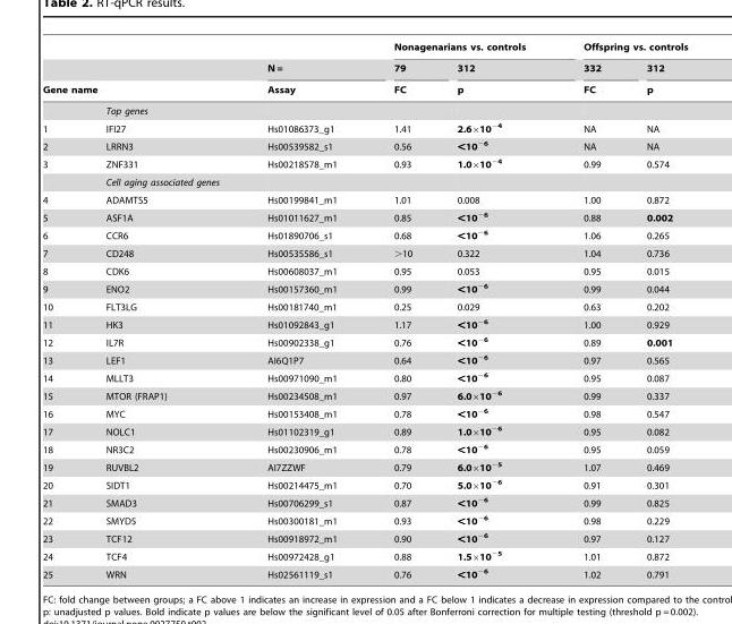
<table><thead><tr><td rowspan="2"></td><td rowspan="2"></td><td rowspan="3">N = Assay</td><td colspan="2">Nonagenarians vs. controls</td><td colspan="2">Offspring vs. controls</td></tr><tr><td rowspan="2">79 FC</td><td rowspan="2">312 p</td><td rowspan="2">332 FC</td><td rowspan="2">312 p</td></tr><tr><td colspan="2">Gene name</td></tr></thead><tbody><tr><td></td><td>Top genes</td><td></td><td></td><td></td><td></td><td></td></tr><tr><td>1</td><td>IFI27</td><td>Hs01086373_g1</td><td>1.41</td><td>2.6×10<sup>−4</sup></td><td>NA</td><td>NA</td></tr><tr><td>2</td><td>LRRN3</td><td>Hs00539582_s1</td><td>0.56</td><td>&lt;10<sup>−6</sup></td><td>NA</td><td>NA</td></tr><tr><td rowspan="2">3</td><td>ZNF331</td><td>Hs00218578_m1</td><td>0.93</td><td>1.0×10<sup>−4</sup></td><td>0.99</td><td>0.574</td></tr><tr><td>Cell aging associated genes</td><td></td><td></td><td></td><td></td><td></td></tr><tr><td>4</td><td>ADAMTS5</td><td>Hs00199841_m1</td><td>1.01</td><td>0.008</td><td>1.00</td><td>0.872</td></tr><tr><td>5</td><td>ASF1A</td><td>Hs01011627_m1</td><td>0.85</td><td>&lt;10<sup>−6</sup></td><td>0.88</td><td>0.002</td></tr><tr><td>6</td><td>CCR6</td><td>Hs01890706_s1</td><td>0.68</td><td>&lt;10<sup>−6</sup></td><td>1.06</td><td>0.265</td></tr><tr><td>7</td><td>CD248</td><td>Hs00535586_s1</td><td>&gt;10</td><td>0.322</td><td>1.04</td><td>0.736</td></tr><tr><td>8</td><td>CDK6</td><td>Hs00608037_m1</td><td>0.95</td><td>0.053</td><td>0.95</td><td>0.015</td></tr><tr><td>9</td><td>ENO2</td><td>Hs00157360_m1</td><td>0.99</td><td>&lt;10<sup>−6</sup></td><td>0.99</td><td>0.044</td></tr><tr><td>10</td><td>FLT3LG</td><td>Hs00181740_m1</td><td>0.25</td><td>0.029</td><td>0.63</td><td>0.202</td></tr><tr><td>11</td><td>HK3</td><td>Hs01092843_g1</td><td>1.17</td><td>&lt;10<sup>−6</sup></td><td>1.00</td><td>0.929</td></tr><tr><td>12</td><td>IL7R</td><td>Hs00902338_g1</td><td>0.76</td><td>&lt;10<sup>−6</sup></td><td>0.89</td><td>0.001</td></tr><tr><td>13</td><td>LEF1</td><td>AI6Q1P7</td><td>0.64</td><td>&lt;10<sup>−6</sup></td><td>0.97</td><td>0.565</td></tr><tr><td>14</td><td>MLLT3</td><td>Hs00971090_m1</td><td>0.80</td><td>&lt;10<sup>−6</sup></td><td>0.95</td><td>0.087</td></tr><tr><td>15</td><td>MTOR (FRAP1)</td><td>Hs00234508_m1</td><td>0.97</td><td>6.0×10<sup>−6</sup></td><td>0.99</td><td>0.337</td></tr><tr><td>16</td><td>MYC</td><td>Hs00153408_m1</td><td>0.78</td><td>&lt;10<sup>−6</sup></td><td>0.98</td><td>0.547</td></tr><tr><td>17</td><td>NOLC1</td><td>Hs01102319_g1</td><td>0.89</td><td>1.0×10<sup>−6</sup></td><td>0.95</td><td>0.082</td></tr><tr><td>18</td><td>NR3C2</td><td>Hs00230906_m1</td><td>0.78</td><td>&lt;10<sup>−6</sup></td><td>0.95</td><td>0.059</td></tr><tr><td>19</td><td>RUVBL2</td><td>AI7ZZWF</td><td>0.79</td><td>6.0×10<sup>−5</sup></td><td>1.07</td><td>0.469</td></tr><tr><td>20</td><td>SIDT1</td><td>Hs00214475_m1</td><td>0.70</td><td>5.0×10<sup>−6</sup></td><td>0.91</td><td>0.301</td></tr><tr><td>21</td><td>SMAD3</td><td>Hs00706299_s1</td><td>0.87</td><td>&lt;10<sup>−6</sup></td><td>0.99</td><td>0.825</td></tr><tr><td>22</td><td>SMYD5</td><td>Hs00300181_m1</td><td>0.93</td><td>&lt;10<sup>−6</sup></td><td>0.98</td><td>0.229</td></tr><tr><td>23</td><td>TCF12</td><td>Hs00918972_m1</td><td>0.90</td><td>&lt;10<sup>−6</sup></td><td>0.97</td><td>0.127</td></tr><tr><td>24</td><td>TCF4</td><td>Hs00972428_g1</td><td>0.88</td><td>1.5×10<sup>−5</sup></td><td>1.01</td><td>0.872</td></tr><tr><td>25</td><td>WRN</td><td>Hs02561119_s1</td><td>0.76</td><td>&lt;10<sup>−6</sup></td><td>1.02</td><td>0.791</td></tr></tbody></table>